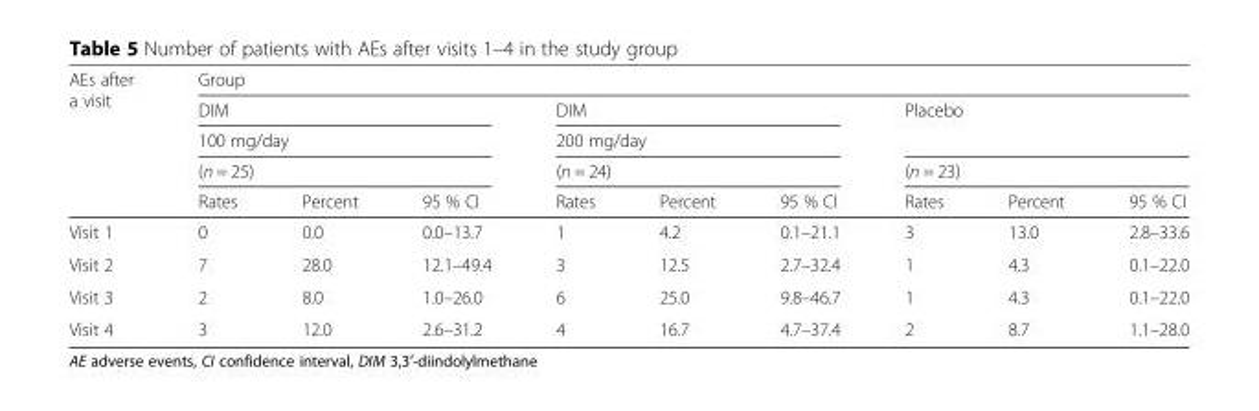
<table><thead><tr><td rowspan="5">AEs after a visit</td><td colspan="9">Group</td></tr><tr><td rowspan="3" colspan="3">DIM 100 mg/day (n = 25)</td><td rowspan="3" colspan="3">DIM 200 mg/day (n = 24)</td><td rowspan="3" colspan="3">Placebo (n = 23)</td></tr><tr></tr><tr></tr><tr><td>Rates</td><td>Percent</td><td>95 % CI</td><td>Rates</td><td>Percent</td><td>95 % CI</td><td>Rates</td><td>Percent</td><td>95 % CI</td></tr></thead><tbody><tr><td>Visit 1</td><td>0</td><td>0.0</td><td>0.0–13.7</td><td>1</td><td>4.2</td><td>0.1–21.1</td><td>3</td><td>13.0</td><td>2.8–33.6</td></tr><tr><td>Visit 2</td><td>7</td><td>28.0</td><td>12.1–49.4</td><td>3</td><td>12.5</td><td>2.7–32.4</td><td>1</td><td>4.3</td><td>0.1–22.0</td></tr><tr><td>Visit 3</td><td>2</td><td>8.0</td><td>1.0–26.0</td><td>6</td><td>25.0</td><td>9.8–46.7</td><td>1</td><td>4.3</td><td>0.1–22.0</td></tr><tr><td>Visit 4</td><td>3</td><td>12.0</td><td>2.6–31.2</td><td>4</td><td>16.7</td><td>4.7–37.4</td><td>2</td><td>8.7</td><td>1.1–28.0</td></tr></tbody></table>